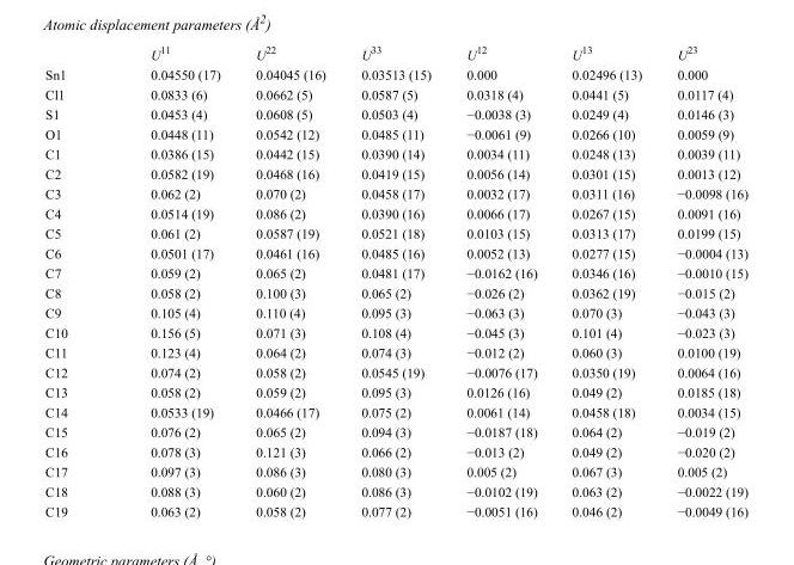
<table><thead><tr><td></td><td>U<sup>11</sup></td><td>U<sup>22</sup></td><td>U<sup>33</sup></td><td>U<sup>12</sup></td><td>U<sup>13</sup></td><td>U<sup>23</sup></td></tr></thead><tbody><tr><td>Sn1</td><td>0.04550 (17)</td><td>0.04045 (16)</td><td>0.03513 (15)</td><td>0.000</td><td>0.02496 (13)</td><td>0.000</td></tr><tr><td>Cl1</td><td>0.0833 (6)</td><td>0.0662 (5)</td><td>0.0587 (5)</td><td>0.0318 (4)</td><td>0.0441 (5)</td><td>0.0117 (4)</td></tr><tr><td>S1</td><td>0.0453 (4)</td><td>0.0608 (5)</td><td>0.0503 (4)</td><td>−0.0038 (3)</td><td>0.0249 (4)</td><td>0.0146 (3)</td></tr><tr><td>O1</td><td>0.0448 (11)</td><td>0.0542 (12)</td><td>0.0485 (11)</td><td>−0.0061 (9)</td><td>0.0266 (10)</td><td>0.0059 (9)</td></tr><tr><td>C1</td><td>0.0386 (15)</td><td>0.0442 (15)</td><td>0.0390 (14)</td><td>0.0034 (11)</td><td>0.0248 (13)</td><td>0.0039 (11)</td></tr><tr><td>C2</td><td>0.0582 (19)</td><td>0.0468 (16)</td><td>0.0419 (15)</td><td>0.0056 (14)</td><td>0.0301 (15)</td><td>0.0013 (12)</td></tr><tr><td>C3</td><td>0.062 (2)</td><td>0.070 (2)</td><td>0.0458 (17)</td><td>0.0032 (17)</td><td>0.0311 (16)</td><td>−0.0098 (16)</td></tr><tr><td>C4</td><td>0.0514 (19)</td><td>0.086 (2)</td><td>0.0390 (16)</td><td>0.0066 (17)</td><td>0.0267 (15)</td><td>0.0091 (16)</td></tr><tr><td>C5</td><td>0.061 (2)</td><td>0.0587 (19)</td><td>0.0521 (18)</td><td>0.0103 (15)</td><td>0.0313 (17)</td><td>0.0199 (15)</td></tr><tr><td>C6</td><td>0.0501 (17)</td><td>0.0461 (16)</td><td>0.0485 (16)</td><td>0.0052 (13)</td><td>0.0277 (15)</td><td>−0.0004 (13)</td></tr><tr><td>C7</td><td>0.059 (2)</td><td>0.065 (2)</td><td>0.0481 (17)</td><td>−0.0162 (16)</td><td>0.0346 (16)</td><td>−0.0010 (15)</td></tr><tr><td>C8</td><td>0.058 (2)</td><td>0.100 (3)</td><td>0.065 (2)</td><td>−0.026 (2)</td><td>0.0362 (19)</td><td>−0.015 (2)</td></tr><tr><td>C9</td><td>0.105 (4)</td><td>0.110 (4)</td><td>0.095 (3)</td><td>−0.063 (3)</td><td>0.070 (3)</td><td>−0.043 (3)</td></tr><tr><td>C10</td><td>0.156 (5)</td><td>0.071 (3)</td><td>0.108 (4)</td><td>−0.045 (3)</td><td>0.101 (4)</td><td>−0.023 (3)</td></tr><tr><td>C11</td><td>0.123 (4)</td><td>0.064 (2)</td><td>0.074 (3)</td><td>−0.012 (2)</td><td>0.060 (3)</td><td>0.0100 (19)</td></tr><tr><td>C12</td><td>0.074 (2)</td><td>0.058 (2)</td><td>0.0545 (19)</td><td>−0.0076 (17)</td><td>0.0350 (19)</td><td>0.0064 (16)</td></tr><tr><td>C13</td><td>0.058 (2)</td><td>0.059 (2)</td><td>0.095 (3)</td><td>0.0126 (16)</td><td>0.049 (2)</td><td>0.0185 (18)</td></tr><tr><td>C14</td><td>0.0533 (19)</td><td>0.0466 (17)</td><td>0.075 (2)</td><td>0.0061 (14)</td><td>0.0458 (18)</td><td>0.0034 (15)</td></tr><tr><td>C15</td><td>0.076 (2)</td><td>0.065 (2)</td><td>0.094 (3)</td><td>−0.0187 (18)</td><td>0.064 (2)</td><td>−0.019 (2)</td></tr><tr><td>C16</td><td>0.078 (3)</td><td>0.121 (3)</td><td>0.066 (2)</td><td>−0.013 (2)</td><td>0.049 (2)</td><td>−0.020 (2)</td></tr><tr><td>C17</td><td>0.097 (3)</td><td>0.086 (3)</td><td>0.080 (3)</td><td>0.005 (2)</td><td>0.067 (3)</td><td>0.005 (2)</td></tr><tr><td>C18</td><td>0.088 (3)</td><td>0.060 (2)</td><td>0.086 (3)</td><td>−0.0102 (19)</td><td>0.063 (2)</td><td>−0.0022 (19)</td></tr><tr><td>C19</td><td>0.063 (2)</td><td>0.058 (2)</td><td>0.077 (2)</td><td>−0.0051 (16)</td><td>0.046 (2)</td><td>−0.0049 (16)</td></tr></tbody></table>